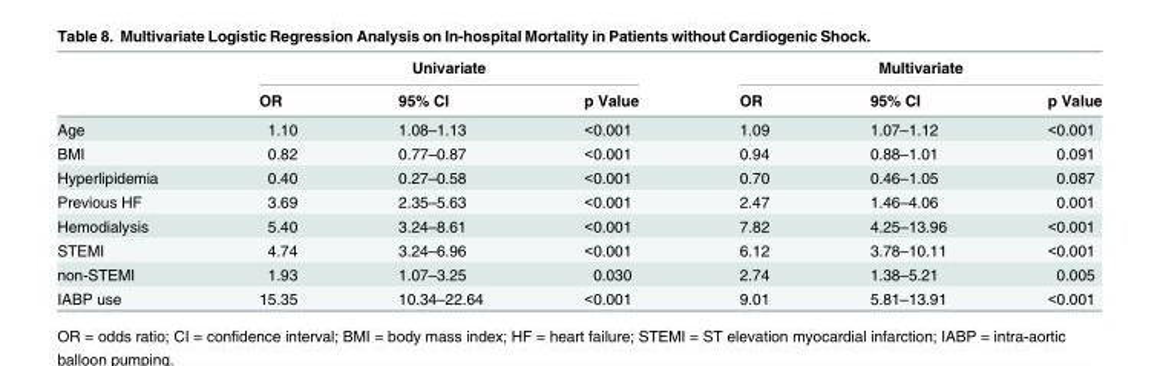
<table><thead><tr><td rowspan="2"></td><td colspan="3">Univariate</td><td colspan="3">Multivariate</td></tr><tr><td>OR</td><td>95% CI</td><td>p Value</td><td>OR</td><td>95% CI</td><td>p Value</td></tr></thead><tbody><tr><td>Age</td><td>1.10</td><td>1.08–1.13</td><td>&lt;0.001</td><td>1.09</td><td>1.07–1.12</td><td>&lt;0.001</td></tr><tr><td>BMI</td><td>0.82</td><td>0.77–0.87</td><td>&lt;0.001</td><td>0.94</td><td>0.88–1.01</td><td>0.091</td></tr><tr><td>Hyperlipidemia</td><td>0.40</td><td>0.27–0.58</td><td>&lt;0.001</td><td>0.70</td><td>0.46–1.05</td><td>0.087</td></tr><tr><td>Previous HF</td><td>3.69</td><td>2.35–5.63</td><td>&lt;0.001</td><td>2.47</td><td>1.46–4.06</td><td>0.001</td></tr><tr><td>Hemodialysis</td><td>5.40</td><td>3.24–8.61</td><td>&lt;0.001</td><td>7.82</td><td>4.25–13.96</td><td>&lt;0.001</td></tr><tr><td>STEMI</td><td>4.74</td><td>3.24–6.96</td><td>&lt;0.001</td><td>6.12</td><td>3.78–10.11</td><td>&lt;0.001</td></tr><tr><td>non-STEMI</td><td>1.93</td><td>1.07–3.25</td><td>0.030</td><td>2.74</td><td>1.38–5.21</td><td>0.005</td></tr><tr><td>IABP use</td><td>15.35</td><td>10.34–22.64</td><td>&lt;0.001</td><td>9.01</td><td>5.81–13.91</td><td>&lt;0.001</td></tr></tbody></table>